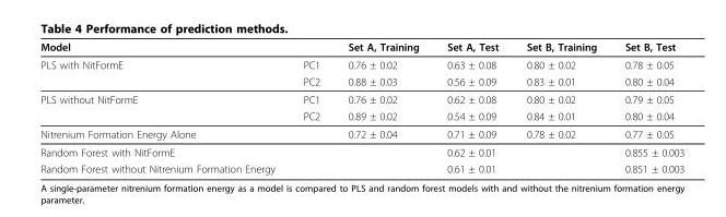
<table><thead><tr><td>Model</td><td></td><td>Set A, Training</td><td>Set A, Test</td><td>Set B, Training</td><td>Set B, Test</td></tr></thead><tbody><tr><td rowspan="2">PLS with NitFormE</td><td>PC1</td><td>0.76 ± 0.02</td><td>0.63 ± 0.08</td><td>0.80 ± 0.02</td><td>0.78 ± 0.05</td></tr><tr><td>PC2</td><td>0.88 ± 0.03</td><td>0.56 ± 0.09</td><td>0.83 ± 0.01</td><td>0.80 ± 0.04</td></tr><tr><td rowspan="2">PLS without NitFormE</td><td>PC1</td><td>0.76 ± 0.02</td><td>0.62 ± 0.08</td><td>0.80 ± 0.02</td><td>0.79 ± 0.05</td></tr><tr><td>PC2</td><td>0.89 ± 0.02</td><td>0.54 ± 0.09</td><td>0.84 ± 0.01</td><td>0.80 ± 0.04</td></tr><tr><td>Nitrenium Formation Energy Alone</td><td></td><td>0.72 ± 0.04</td><td>0.71 ± 0.09</td><td>0.78 ± 0.02</td><td>0.77 ± 0.05</td></tr><tr><td>Random Forest with NitFormE</td><td></td><td></td><td>0.62 ± 0.01</td><td></td><td>0.855 ± 0.003</td></tr><tr><td>Random Forest without Nitrenium Formation Energy</td><td></td><td></td><td>0.61 ± 0.01</td><td></td><td>0.851 ± 0.003</td></tr></tbody></table>